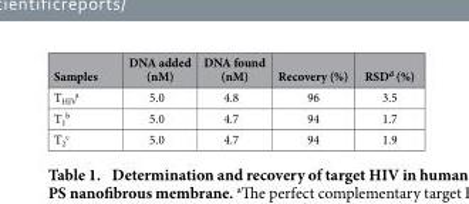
<table><thead><tr><td>Samples</td><td>DNA added (nM)</td><td>DNA found (nM)</td><td>Recovery (%)</td><td>RSD<sup>d</sup> (%)</td></tr></thead><tbody><tr><td>T<sub>HIV</sub> <sup>a</sup></td><td>5.0</td><td>4.8</td><td>96</td><td>3.5</td></tr><tr><td>T<sub>1</sub> <sup>b</sup></td><td>5.0</td><td>4.7</td><td>94</td><td>1.7</td></tr><tr><td>T<sub>2</sub> <sup>c</sup></td><td>5.0</td><td>4.7</td><td>94</td><td>1.9</td></tr></tbody></table>